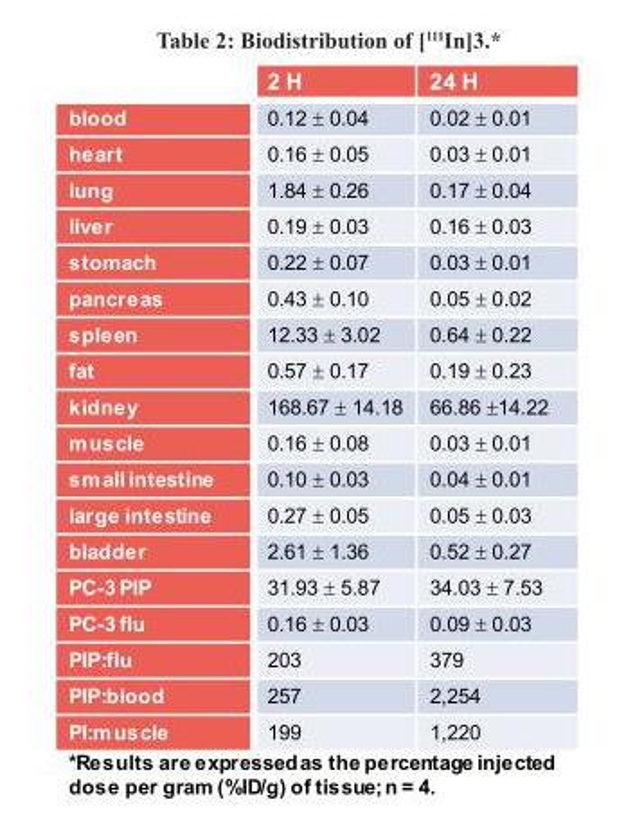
<table><thead><tr><td></td><td>2 H</td><td>24 H</td></tr></thead><tbody><tr><td>blood</td><td>0.12 ± 0.04</td><td>0.02 ± 0.01</td></tr><tr><td>heart</td><td>0.16 ± 0.05</td><td>0.03 ± 0.01</td></tr><tr><td>lung</td><td>1.84 ± 0.26</td><td>0.17 ± 0.04</td></tr><tr><td>liver</td><td>0.19 ± 0.03</td><td>0.16 ± 0.03</td></tr><tr><td>stomach</td><td>0.22 ± 0.07</td><td>0.03 ± 0.01</td></tr><tr><td>pancreas</td><td>0.43 ± 0.10</td><td>0.05 ± 0.02</td></tr><tr><td>spleen</td><td>12.33 ± 3.02</td><td>0.64 ± 0.22</td></tr><tr><td>fat</td><td>0.57 ± 0.17</td><td>0.19 ± 0.23</td></tr><tr><td>kidney</td><td>168.67 ± 14.18</td><td>66.86 ±14.22</td></tr><tr><td>muscle</td><td>0.16 ± 0.08</td><td>0.03 ± 0.01</td></tr><tr><td>small intestine</td><td>0.10 ± 0.03</td><td>0.04 ± 0.01</td></tr><tr><td>large intestine</td><td>0.27 ± 0.05</td><td>0.05 ± 0.03</td></tr><tr><td>bladder</td><td>2.61 ± 1.36</td><td>0.52 ± 0.27</td></tr><tr><td>PC-3 PIP</td><td>31.93 ± 5.87</td><td>34.03 ± 7.53</td></tr><tr><td>PC-3 flu</td><td>0.16 ± 0.03</td><td>0.09 ± 0.03</td></tr><tr><td>PIP:flu</td><td>203</td><td>379</td></tr><tr><td>PIP:blood</td><td>257</td><td>2,254</td></tr><tr><td>PI:muscle</td><td>199</td><td>1,220</td></tr></tbody></table>